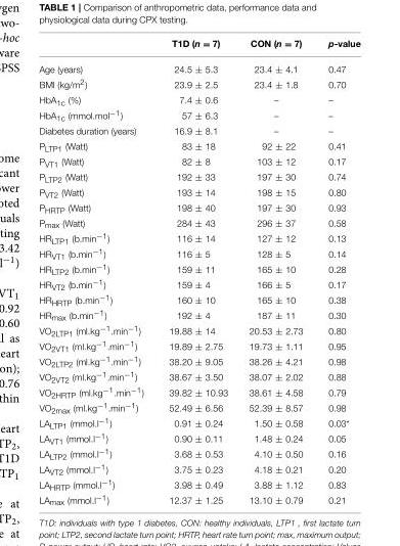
<table><thead><tr><td></td><td>T1D (n = 7)</td><td>CON (n = 7)</td><td>p-value</td></tr></thead><tbody><tr><td>Age (years)</td><td>24.5 ± 5.3</td><td>23.4 ± 4.1</td><td>0.47</td></tr><tr><td>BMI (kg/m<sup>2</sup>)</td><td>23.9 ± 2.5</td><td>23.4 ± 1.8</td><td>0.70</td></tr><tr><td>HbA<sub>1c</sub> (%)</td><td>7.4 ± 0.6</td><td>–</td><td>–</td></tr><tr><td>HbA<sub>1c</sub> (mmol.mol<sup>−1</sup>)</td><td>57 ± 6.3</td><td>–</td><td>–</td></tr><tr><td>Diabetes duration (years)</td><td>16.9 ± 8.1</td><td>–</td><td>–</td></tr><tr><td>P<sub>LTP1</sub> (Watt)</td><td>83 ± 18</td><td>92 ± 22</td><td>0.41</td></tr><tr><td>P<sub>VT1</sub> (Watt)</td><td>82 ± 8</td><td>103 ± 12</td><td>0.17</td></tr><tr><td>P<sub>LTP2</sub> (Watt)</td><td>192 ± 33</td><td>197 ± 30</td><td>0.74</td></tr><tr><td>P<sub>VT2</sub> (Watt)</td><td>193 ± 14</td><td>198 ± 15</td><td>0.80</td></tr><tr><td>P<sub>HRTP</sub> (Watt)</td><td>198 ± 40</td><td>197 ± 30</td><td>0.93</td></tr><tr><td>P<sub>max</sub> (Watt)</td><td>284 ± 43</td><td>296 ± 37</td><td>0.58</td></tr><tr><td>HR<sub>LTP1</sub> (b.min<sup>−1</sup>)</td><td>116 ± 14</td><td>127 ± 12</td><td>0.13</td></tr><tr><td>HR<sub>VT1</sub> (b.min<sup>−1</sup>)</td><td>116 ± 5</td><td>128 ± 5</td><td>0.14</td></tr><tr><td>HR<sub>LTP2</sub> (b.min<sup>−1</sup>)</td><td>159 ± 11</td><td>165 ± 10</td><td>0.28</td></tr><tr><td>HR<sub>VT2</sub> (b.min<sup>−1</sup>)</td><td>159 ± 4</td><td>166 ± 5</td><td>0.17</td></tr><tr><td>HR<sub>HRTP</sub> (b.min<sup>−1</sup>)</td><td>160 ± 10</td><td>165 ± 10</td><td>0.38</td></tr><tr><td>HR<sub>max</sub> (b.min<sup>−1</sup>)</td><td>192 ± 4</td><td>187 ± 11</td><td>0.30</td></tr><tr><td>VO<sub>2LTP1</sub> (ml.kg<sup>−1</sup>.min<sup>−1</sup>)</td><td>19.88 ± 14</td><td>20.53 ± 2.73</td><td>0.80</td></tr><tr><td>VO<sub>2VT1</sub> (ml.kg<sup>−1</sup>.min<sup>−1</sup>)</td><td>19.89 ± 2.75</td><td>19.73 ± 1.11</td><td>0.95</td></tr><tr><td>VO<sub>2LTP2</sub> (ml.kg<sup>−1</sup>.min<sup>−1</sup>)</td><td>38.20 ± 9.05</td><td>38.26 ± 4.21</td><td>0.98</td></tr><tr><td>VO<sub>2VT2</sub> (ml.kg<sup>−1</sup>.min<sup>−1</sup>)</td><td>38.67 ± 3.50</td><td>38.07 ± 2.02</td><td>0.88</td></tr><tr><td>VO<sub>2HRTP</sub> (ml.kg<sup>−1</sup>.min<sup>−1</sup>)</td><td>39.82 ± 10.93</td><td>38.61 ± 4.58</td><td>0.79</td></tr><tr><td>VO<sub>2max</sub> (ml.kg<sup>−1</sup>.min<sup>−1</sup>)</td><td>52.49 ± 6.56</td><td>52.39 ± 8.57</td><td>0.98</td></tr><tr><td>LA<sub>LTP1</sub> (mmol.l<sup>−1</sup>)</td><td>0.91 ± 0.24</td><td>1.50 ± 0.58</td><td>0.03*</td></tr><tr><td>LA<sub>VT1</sub> (mmol.l<sup>−1</sup>)</td><td>0.90 ± 0.11</td><td>1.48 ± 0.24</td><td>0.05</td></tr><tr><td>LA<sub>LTP2</sub> (mmol.l<sup>−1</sup>)</td><td>3.68 ± 0.53</td><td>4.10 ± 0.50</td><td>0.16</td></tr><tr><td>LA<sub>VT2</sub> (mmol.l<sup>−1</sup>)</td><td>3.75 ± 0.23</td><td>4.18 ± 0.21</td><td>0.20</td></tr><tr><td>LA<sub>HRTP</sub> (mmol.l<sup>−1</sup>)</td><td>3.98 ± 0.49</td><td>3.88 ± 1.12</td><td>0.83</td></tr><tr><td>LA<sub>max</sub> (mmol.l<sup>−1</sup>)</td><td>12.37 ± 1.25</td><td>13.10 ± 0.79</td><td>0.21</td></tr></tbody></table>